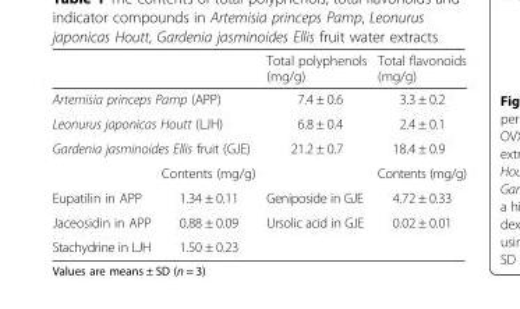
<table><thead><tr><td></td><td></td><td>Total polyphenols (mg/g)</td><td>Total flavonoids (mg/g)</td></tr></thead><tbody><tr><td colspan="2">Artemisia princeps Pamp (APP)</td><td>7.4 ± 0.6</td><td>3.3 ± 0.2</td></tr><tr><td colspan="2">Leonurus japonicas Houtt (LJH)</td><td>6.8 ± 0.4</td><td>2.4 ± 0.1</td></tr><tr><td colspan="2">Gardenia jasminoides Ellis fruit (GJE)</td><td>21.2 ± 0.7</td><td>18.4 ± 0.9</td></tr><tr><td></td><td>Contents (mg/g)</td><td></td><td>Contents (mg/g)</td></tr><tr><td>Eupatilin in APP</td><td>1.34 ± 0.11</td><td>Geniposide in GJE</td><td>4.72 ± 0.33</td></tr><tr><td>Jaceosidin in APP</td><td>0.88 ± 0.09</td><td>Ursolic acid in GJE</td><td>0.02 ± 0.01</td></tr><tr><td>Stachydrine in LJH</td><td>1.50 ± 0.23</td><td></td><td></td></tr></tbody></table>